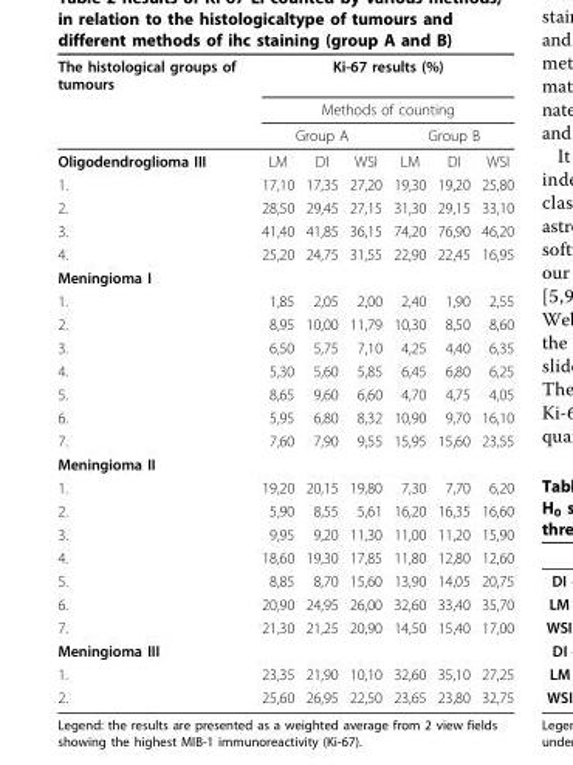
<table><thead><tr><td rowspan="4">The histological groups of tumours Oligodendroglioma III</td><td rowspan="2" colspan="6">Ki-67 results (%) Methods of counting</td></tr><tr></tr><tr><td colspan="3">Group A</td><td colspan="3">Group B</td></tr><tr><td>LM</td><td>DI</td><td>WSI</td><td>LM</td><td>DI</td><td>WSI</td></tr></thead><tbody><tr><td>1.</td><td>17,10</td><td>17,35</td><td>27,20</td><td>19,30</td><td>19,20</td><td>25,80</td></tr><tr><td>2.</td><td>28,50</td><td>29,45</td><td>27,15</td><td>31,30</td><td>29,15</td><td>33,10</td></tr><tr><td>3.</td><td>41,40</td><td>41,85</td><td>36,15</td><td>74,20</td><td>76,90</td><td>46,20</td></tr><tr><td>4.</td><td>25,20</td><td>24,75</td><td>31,55</td><td>22,90</td><td>22,45</td><td>16,95</td></tr><tr><td colspan="7">Meningioma I</td></tr><tr><td>1.</td><td>1,85</td><td>2,05</td><td>2,00</td><td>2,40</td><td>1,90</td><td>2,55</td></tr><tr><td>2.</td><td>8,95</td><td>10,00</td><td>11,79</td><td>10,30</td><td>8,50</td><td>8,60</td></tr><tr><td>3.</td><td>6,50</td><td>5,75</td><td>7,10</td><td>4,25</td><td>4,40</td><td>6,35</td></tr><tr><td>4.</td><td>5,30</td><td>5,60</td><td>5,85</td><td>6,45</td><td>6,80</td><td>6,25</td></tr><tr><td>5.</td><td>8,65</td><td>9,60</td><td>6,60</td><td>4,70</td><td>4,75</td><td>4,05</td></tr><tr><td>6.</td><td>5,95</td><td>6,80</td><td>8,32</td><td>10,90</td><td>9,70</td><td>16,10</td></tr><tr><td>7.</td><td>7,60</td><td>7,90</td><td>9,55</td><td>15,95</td><td>15,60</td><td>23,55</td></tr><tr><td colspan="7">Meningioma II</td></tr><tr><td>1.</td><td>19,20</td><td>20,15</td><td>19,80</td><td>7,30</td><td>7,70</td><td>6,20</td></tr><tr><td>2.</td><td>5,90</td><td>8,55</td><td>5,61</td><td>16,20</td><td>16,35</td><td>16,60</td></tr><tr><td>3.</td><td>9,95</td><td>9,20</td><td>11,30</td><td>11,00</td><td>11,20</td><td>15,90</td></tr><tr><td>4.</td><td>18,60</td><td>19,30</td><td>17,85</td><td>11,80</td><td>12,80</td><td>12,60</td></tr><tr><td>5.</td><td>8,85</td><td>8,70</td><td>15,60</td><td>13,90</td><td>14,05</td><td>20,75</td></tr><tr><td>6.</td><td>20,90</td><td>24,95</td><td>26,00</td><td>32,60</td><td>33,40</td><td>35,70</td></tr><tr><td>7.</td><td>21,30</td><td>21,25</td><td>20,90</td><td>14,50</td><td>15,40</td><td>17,00</td></tr><tr><td colspan="7">Meningioma III</td></tr><tr><td>1.</td><td>23,35</td><td>21,90</td><td>10,10</td><td>32,60</td><td>35,10</td><td>27,25</td></tr><tr><td>2.</td><td>25,60</td><td>26,95</td><td>22,50</td><td>23,65</td><td>23,80</td><td>32,75</td></tr></tbody></table>